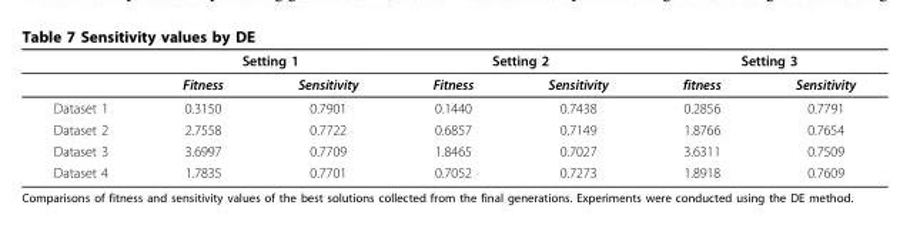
<table><thead><tr><td rowspan="2"></td><td colspan="2">Setting 1</td><td colspan="2">Setting 2</td><td colspan="2">Setting 3</td></tr><tr><td>Fitness</td><td>Sensitivity</td><td>Fitness</td><td>Sensitivity</td><td>fitness</td><td>Sensitivity</td></tr></thead><tbody><tr><td>Dataset 1</td><td>0.3150</td><td>0.7901</td><td>0.1440</td><td>0.7438</td><td>0.2856</td><td>0.7791</td></tr><tr><td>Dataset 2</td><td>2.7558</td><td>0.7722</td><td>0.6857</td><td>0.7149</td><td>1.8766</td><td>0.7654</td></tr><tr><td>Dataset 3</td><td>3.6997</td><td>0.7709</td><td>1.8465</td><td>0.7027</td><td>3.6311</td><td>0.7509</td></tr><tr><td>Dataset 4</td><td>1.7835</td><td>0.7701</td><td>0.7052</td><td>0.7273</td><td>1.8918</td><td>0.7609</td></tr></tbody></table>